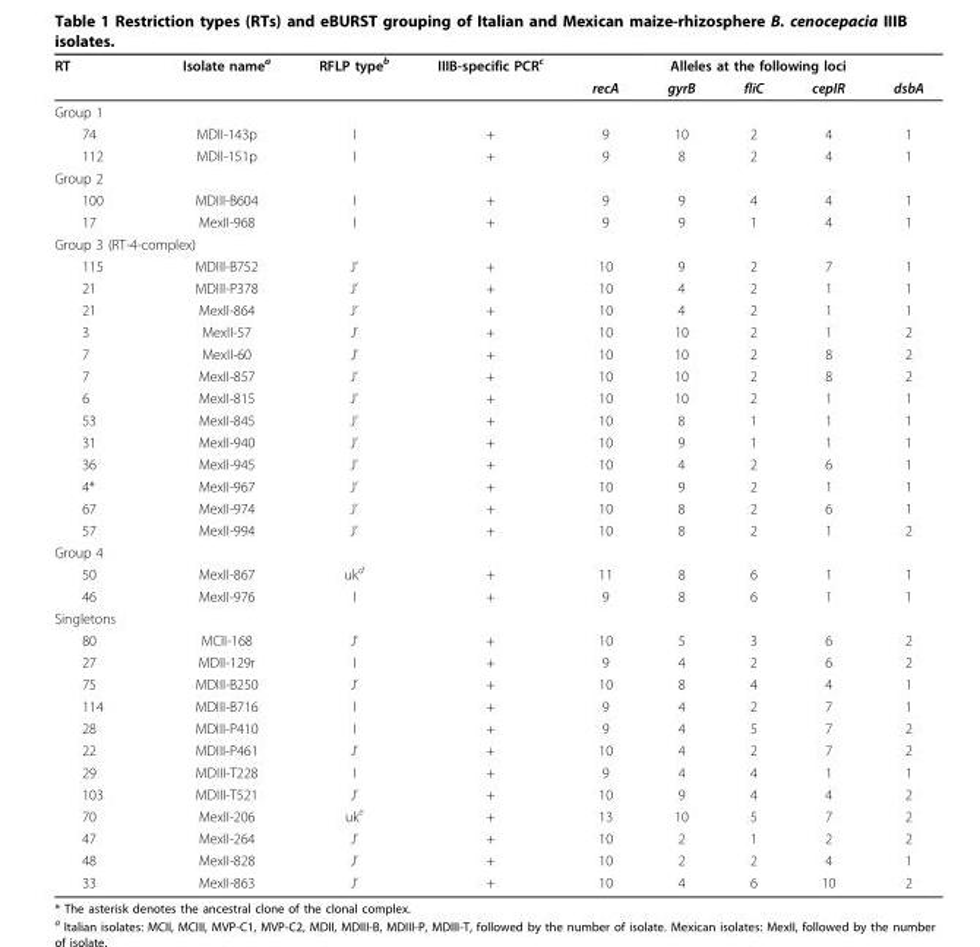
<table><thead><tr><td rowspan="2">RT</td><td rowspan="2">Isolate name<sup>a</sup></td><td rowspan="2">RFLP type<sup>b</sup></td><td rowspan="2">IIIB-specific PCR<sup>c</sup></td><td colspan="5">Alleles at the following loci</td></tr><tr><td>recA</td><td>gyrB</td><td>fliC</td><td>cepIR</td><td>dsbA</td></tr></thead><tbody><tr><td colspan="9">Group 1</td></tr><tr><td>74</td><td>MDII-143p</td><td>I</td><td>+</td><td>9</td><td>10</td><td>2</td><td>4</td><td>1</td></tr><tr><td>112</td><td>MDII-151p</td><td>I</td><td>+</td><td>9</td><td>8</td><td>2</td><td>4</td><td>1</td></tr><tr><td colspan="9">Group 2</td></tr><tr><td>100</td><td>MDIII-B604</td><td>I</td><td>+</td><td>9</td><td>9</td><td>4</td><td>4</td><td>1</td></tr><tr><td>17</td><td>MexII-968</td><td>I</td><td>+</td><td>9</td><td>9</td><td>1</td><td>4</td><td>1</td></tr><tr><td colspan="9">Group 3 (RT-4-complex)</td></tr><tr><td>115</td><td>MDIII-B752</td><td>J’</td><td>+</td><td>10</td><td>9</td><td>2</td><td>7</td><td>1</td></tr><tr><td>21</td><td>MDIII-P378</td><td>J’</td><td>+</td><td>10</td><td>4</td><td>2</td><td>1</td><td>1</td></tr><tr><td>21</td><td>MexII-864</td><td>J’</td><td>+</td><td>10</td><td>4</td><td>2</td><td>1</td><td>1</td></tr><tr><td>3</td><td>MexII-57</td><td>J’</td><td>+</td><td>10</td><td>10</td><td>2</td><td>1</td><td>2</td></tr><tr><td>7</td><td>MexII-60</td><td>J’</td><td>+</td><td>10</td><td>10</td><td>2</td><td>8</td><td>2</td></tr><tr><td>7</td><td>MexII-857</td><td>J’</td><td>+</td><td>10</td><td>10</td><td>2</td><td>8</td><td>2</td></tr><tr><td>6</td><td>MexII-815</td><td>J’</td><td>+</td><td>10</td><td>10</td><td>2</td><td>1</td><td>1</td></tr><tr><td>53</td><td>MexII-845</td><td>J’</td><td>+</td><td>10</td><td>8</td><td>1</td><td>1</td><td>1</td></tr><tr><td>31</td><td>MexII-940</td><td>J’</td><td>+</td><td>10</td><td>9</td><td>1</td><td>1</td><td>1</td></tr><tr><td>36</td><td>MexII-945</td><td>J’</td><td>+</td><td>10</td><td>4</td><td>2</td><td>6</td><td>1</td></tr><tr><td>4*</td><td>MexII-967</td><td>J’</td><td>+</td><td>10</td><td>9</td><td>2</td><td>1</td><td>1</td></tr><tr><td>67</td><td>MexII-974</td><td>J’</td><td>+</td><td>10</td><td>8</td><td>2</td><td>6</td><td>1</td></tr><tr><td>57</td><td>MexII-994</td><td>J’</td><td>+</td><td>10</td><td>8</td><td>2</td><td>1</td><td>2</td></tr><tr><td colspan="9">Group 4</td></tr><tr><td>50</td><td>MexII-867</td><td>uk<sup>d</sup></td><td>+</td><td>11</td><td>8</td><td>6</td><td>1</td><td>1</td></tr><tr><td>46</td><td>MexII-976</td><td>I</td><td>+</td><td>9</td><td>8</td><td>6</td><td>1</td><td>1</td></tr><tr><td colspan="9">Singletons</td></tr><tr><td>80</td><td>MCII-168</td><td>J’</td><td>+</td><td>10</td><td>5</td><td>3</td><td>6</td><td>2</td></tr><tr><td>27</td><td>MDII-129r</td><td>I</td><td>+</td><td>9</td><td>4</td><td>2</td><td>6</td><td>2</td></tr><tr><td>75</td><td>MDIII-B250</td><td>J’</td><td>+</td><td>10</td><td>8</td><td>4</td><td>4</td><td>1</td></tr><tr><td>114</td><td>MDIII-B716</td><td>I</td><td>+</td><td>9</td><td>4</td><td>2</td><td>7</td><td>1</td></tr><tr><td>28</td><td>MDIII-P410</td><td>I</td><td>+</td><td>9</td><td>4</td><td>5</td><td>7</td><td>2</td></tr><tr><td>22</td><td>MDIII-P461</td><td>J’</td><td>+</td><td>10</td><td>4</td><td>2</td><td>7</td><td>2</td></tr><tr><td>29</td><td>MDIII-T228</td><td>I</td><td>+</td><td>9</td><td>4</td><td>4</td><td>1</td><td>1</td></tr><tr><td>103</td><td>MDIII-T521</td><td>J’</td><td>+</td><td>10</td><td>9</td><td>4</td><td>4</td><td>2</td></tr><tr><td>70</td><td>MexII-206</td><td>uk<sup>e</sup></td><td>+</td><td>13</td><td>10</td><td>5</td><td>7</td><td>2</td></tr><tr><td>47</td><td>MexII-264</td><td>J’</td><td>+</td><td>10</td><td>2</td><td>1</td><td>2</td><td>2</td></tr><tr><td>48</td><td>MexII-828</td><td>J’</td><td>+</td><td>10</td><td>2</td><td>2</td><td>4</td><td>1</td></tr><tr><td>33</td><td>MexII-863</td><td>J’</td><td>+</td><td>10</td><td>4</td><td>6</td><td>10</td><td>2</td></tr></tbody></table>